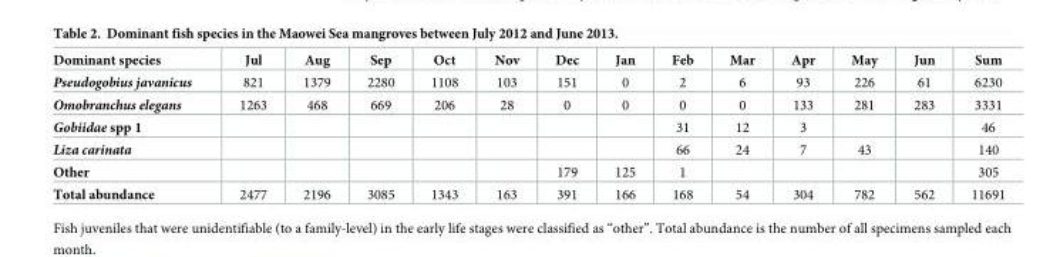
<table><thead><tr><td>Dominant species</td><td>Jul</td><td>Aug</td><td>Sep</td><td>Oct</td><td>Nov</td><td>Dec</td><td>Jan</td><td>Feb</td><td>Mar</td><td>Apr</td><td>May</td><td>Jun</td><td>Sum</td></tr></thead><tbody><tr><td>Pseudogobius javanicus</td><td>821</td><td>1379</td><td>2280</td><td>1108</td><td>103</td><td>151</td><td>0</td><td>2</td><td>6</td><td>93</td><td>226</td><td>61</td><td>6230</td></tr><tr><td>Omobranchus elegans</td><td>1263</td><td>468</td><td>669</td><td>206</td><td>28</td><td>0</td><td>0</td><td>0</td><td>0</td><td>133</td><td>281</td><td>283</td><td>3331</td></tr><tr><td>Gobiidae spp 1</td><td></td><td></td><td></td><td></td><td></td><td></td><td></td><td>31</td><td>12</td><td>3</td><td></td><td></td><td>46</td></tr><tr><td>Liza carinata</td><td></td><td></td><td></td><td></td><td></td><td></td><td></td><td>66</td><td>24</td><td>7</td><td>43</td><td></td><td>140</td></tr><tr><td>Other</td><td></td><td></td><td></td><td></td><td></td><td>179</td><td>125</td><td>1</td><td></td><td></td><td></td><td></td><td>305</td></tr><tr><td>Total abundance</td><td>2477</td><td>2196</td><td>3085</td><td>1343</td><td>163</td><td>391</td><td>166</td><td>168</td><td>54</td><td>304</td><td>782</td><td>562</td><td>11691</td></tr></tbody></table>